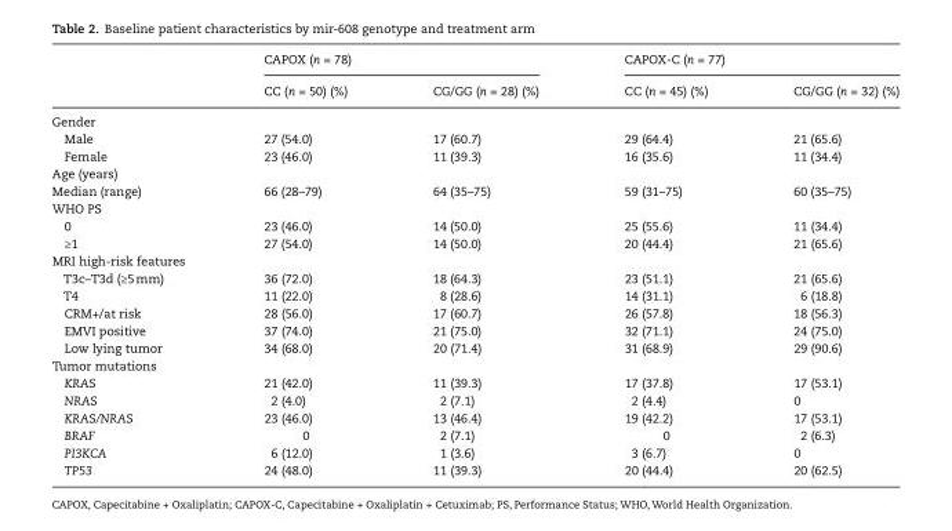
<table><thead><tr><td rowspan="2"></td><td colspan="2">CAPOX (n = 78)</td><td colspan="2">CAPOX-C (n = 77)</td></tr><tr><td>CC (n = 50) (%)</td><td>CG/GG (n = 28) (%)</td><td>CC (n = 45) (%)</td><td>CG/GG (n = 32) (%)</td></tr></thead><tbody><tr><td colspan="5">Gender</td></tr><tr><td>Male</td><td>27 (54.0)</td><td>17 (60.7)</td><td>29 (64.4)</td><td>21 (65.6)</td></tr><tr><td>Female</td><td>23 (46.0)</td><td>11 (39.3)</td><td>16 (35.6)</td><td>11 (34.4)</td></tr><tr><td colspan="5">Age (years)</td></tr><tr><td>Median (range)</td><td>66 (28–79)</td><td>64 (35–75)</td><td>59 (31–75)</td><td>60 (35–75)</td></tr><tr><td colspan="5">WHO PS</td></tr><tr><td>0</td><td>23 (46.0)</td><td>14 (50.0)</td><td>25 (55.6)</td><td>11 (34.4)</td></tr><tr><td>≥1</td><td>27 (54.0)</td><td>14 (50.0)</td><td>20 (44.4)</td><td>21 (65.6)</td></tr><tr><td colspan="5">MRI high-risk features</td></tr><tr><td>T3c–T3d (≥5 mm)</td><td>36 (72.0)</td><td>18 (64.3)</td><td>23 (51.1)</td><td>21 (65.6)</td></tr><tr><td>T4</td><td>11 (22.0)</td><td>8 (28.6)</td><td>14 (31.1)</td><td>6 (18.8)</td></tr><tr><td>CRM+/at risk</td><td>28 (56.0)</td><td>17 (60.7)</td><td>26 (57.8)</td><td>18 (56.3)</td></tr><tr><td>EMVI positive</td><td>37 (74.0)</td><td>21 (75.0)</td><td>32 (71.1)</td><td>24 (75.0)</td></tr><tr><td>Low lying tumor</td><td>34 (68.0)</td><td>20 (71.4)</td><td>31 (68.9)</td><td>29 (90.6)</td></tr><tr><td colspan="5">Tumor mutations</td></tr><tr><td>KRAS</td><td>21 (42.0)</td><td>11 (39.3)</td><td>17 (37.8)</td><td>17 (53.1)</td></tr><tr><td>NRAS</td><td>2 (4.0)</td><td>2 (7.1)</td><td>2 (4.4)</td><td>0</td></tr><tr><td>KRAS/NRAS</td><td>23 (46.0)</td><td>13 (46.4)</td><td>19 (42.2)</td><td>17 (53.1)</td></tr><tr><td>BRAF</td><td>0</td><td>2 (7.1)</td><td>0</td><td>2 (6.3)</td></tr><tr><td>PI3KCA</td><td>6 (12.0)</td><td>1 (3.6)</td><td>3 (6.7)</td><td>0</td></tr><tr><td>TP53</td><td>24 (48.0)</td><td>11 (39.3)</td><td>20 (44.4)</td><td>20 (62.5)</td></tr></tbody></table>